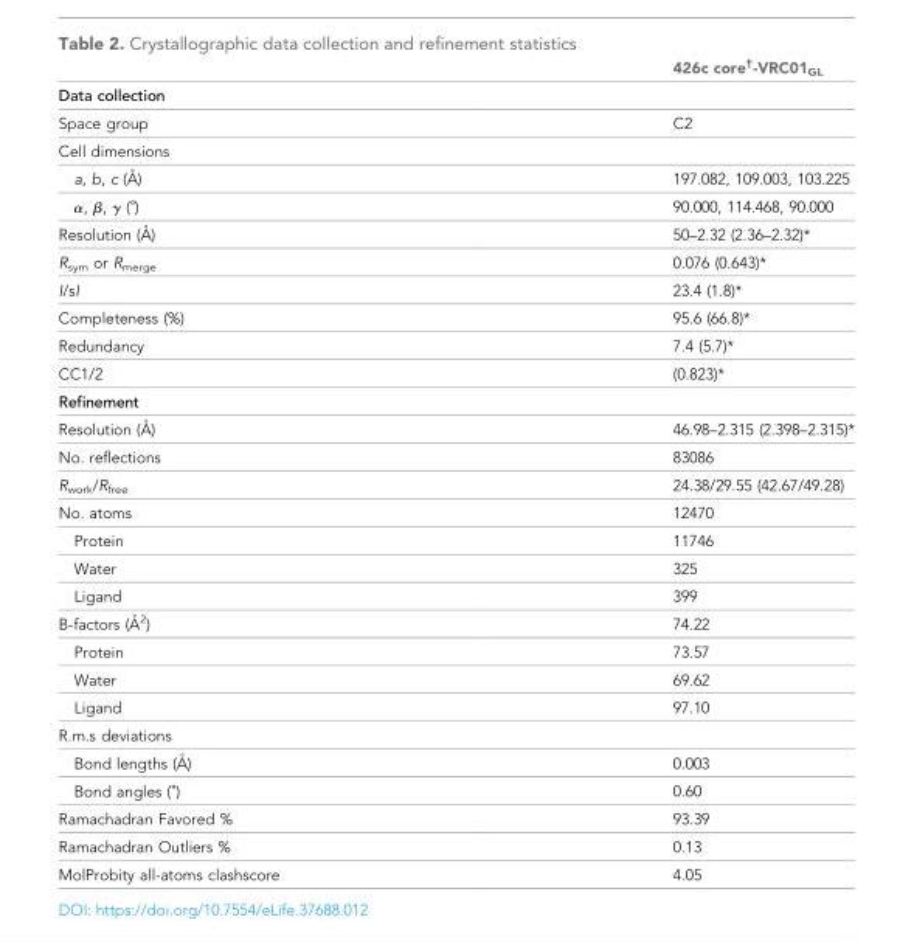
<table><thead><tr><td></td><td>426c core<sup>†</sup>-VRC01<sub>GL</sub></td></tr></thead><tbody><tr><td colspan="2">Data collection</td></tr><tr><td>Space group</td><td>C2</td></tr><tr><td colspan="2">Cell dimensions</td></tr><tr><td>a, b, c (A˚ )</td><td>197.082, 109.003, 103.225</td></tr><tr><td>α, β, γ (˚)</td><td>90.000, 114.468, 90.000</td></tr><tr><td>Resolution (A˚ )</td><td>50–2.32 (2.36–2.32)*</td></tr><tr><td>R<sub>sym</sub> or R<sub>merge</sub></td><td>0.076 (0.643)*</td></tr><tr><td>I/sI</td><td>23.4 (1.8)*</td></tr><tr><td>Completeness (%)</td><td>95.6 (66.8)*</td></tr><tr><td>Redundancy</td><td>7.4 (5.7)*</td></tr><tr><td>CC1/2</td><td>(0.823)*</td></tr><tr><td colspan="2">Refinement</td></tr><tr><td>Resolution (A˚ )</td><td>46.98–2.315 (2.398–2.315)*</td></tr><tr><td>No. reflections</td><td>83086</td></tr><tr><td>R<sub>work</sub>/R<sub>free</sub></td><td>24.38/29.55 (42.67/49.28)</td></tr><tr><td>No. atoms</td><td>12470</td></tr><tr><td>Protein</td><td>11746</td></tr><tr><td>Water</td><td>325</td></tr><tr><td>Ligand</td><td>399</td></tr><tr><td>B-factors (A˚ 2)</td><td>74.22</td></tr><tr><td>Protein</td><td>73.57</td></tr><tr><td>Water</td><td>69.62</td></tr><tr><td>Ligand</td><td>97.10</td></tr><tr><td colspan="2">R.m.s deviations</td></tr><tr><td>Bond lengths (A˚ )</td><td>0.003</td></tr><tr><td>Bond angles (˚)</td><td>0.60</td></tr><tr><td>Ramachadran Favored %</td><td>93.39</td></tr><tr><td>Ramachadran Outliers %</td><td>0.13</td></tr><tr><td>MolProbity all-atoms clashscore</td><td>4.05</td></tr></tbody></table>